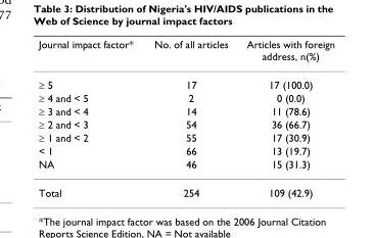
<table><thead><tr><td>Journal impact factor*</td><td>No. of all articles</td><td>Articles with foreign address, n(%)</td></tr></thead><tbody><tr><td>≥ 5</td><td>17</td><td>17 (100.0)</td></tr><tr><td>≥ 4 and &lt; 5</td><td>2</td><td>0 (0.0)</td></tr><tr><td>≥ 3 and &lt; 4</td><td>14</td><td>11 (78.6)</td></tr><tr><td>≥ 2 and &lt; 3</td><td>54</td><td>36 (66.7)</td></tr><tr><td>≥ 1 and &lt; 2</td><td>55</td><td>17 (30.9)</td></tr><tr><td>&lt; 1</td><td>66</td><td>13 (19.7)</td></tr><tr><td>NA</td><td>46</td><td>15 (31.3)</td></tr><tr><td>Total</td><td>254</td><td>109 (42.9)</td></tr></tbody></table>